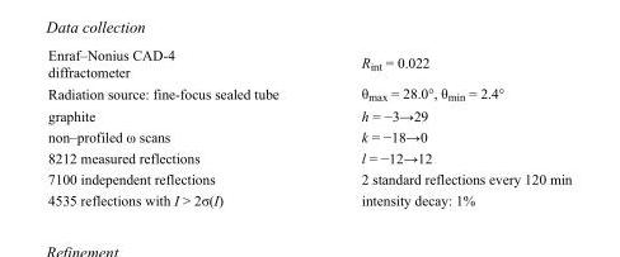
<table><tbody><tr><td>Enraf–Nonius CAD-4 diffractometer</td><td>R<sub>int</sub> = 0.022</td></tr><tr><td>Radiation source: fine-focus sealed tube</td><td>θ<sub>max</sub> = 28.0°, θ<sub>min</sub> = 2.4°</td></tr><tr><td>graphite</td><td>h = −3→29</td></tr><tr><td>non–profiled ω scans</td><td>k = −18→0</td></tr><tr><td>8212 measured reflections</td><td>l = −12→12</td></tr><tr><td>7100 independent reflections</td><td>2 standard reflections every 120 min</td></tr><tr><td>4535 reflections with I &gt; 2σ(I)</td><td>intensity decay: 1%</td></tr></tbody></table>